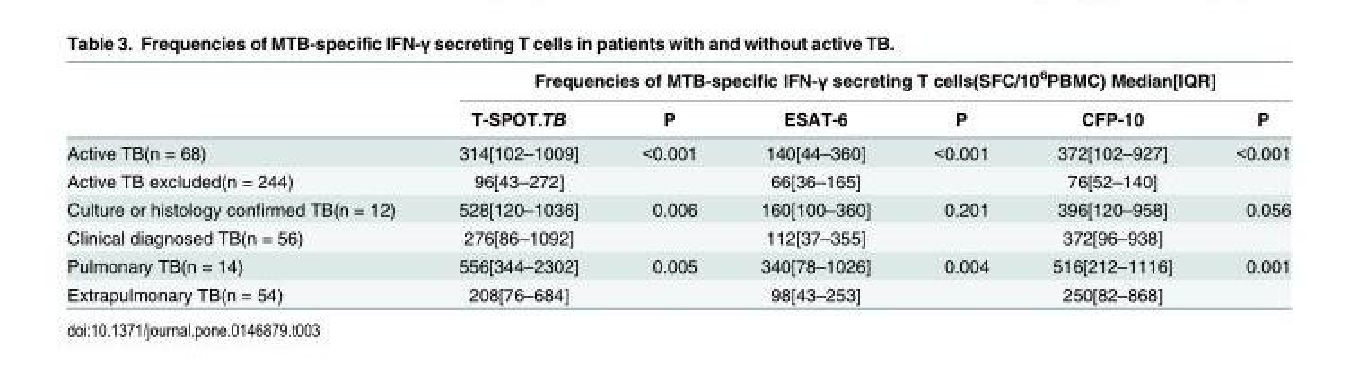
<table><thead><tr><td rowspan="2"></td><td colspan="6">Frequencies of MTB-specific IFN-γ secreting T cells(SFC/10<sup>6</sup>PBMC) Median[IQR]</td></tr><tr><td>T-SPOT.TB</td><td>P</td><td>ESAT-6</td><td>P</td><td>CFP-10</td><td>P</td></tr></thead><tbody><tr><td>Active TB(n = 68)</td><td>314[102–1009]</td><td>&lt;0.001</td><td>140[44–360]</td><td>&lt;0.001</td><td>372[102–927]</td><td>&lt;0.001</td></tr><tr><td>Active TB excluded(n = 244)</td><td>96[43–272]</td><td></td><td>66[36–165]</td><td></td><td>76[52–140]</td><td></td></tr><tr><td>Culture or histology confirmed TB(n = 12)</td><td>528[120–1036]</td><td>0.006</td><td>160[100–360]</td><td>0.201</td><td>396[120–958]</td><td>0.056</td></tr><tr><td>Clinical diagnosed TB(n = 56)</td><td>276[86–1092]</td><td></td><td>112[37–355]</td><td></td><td>372[96–938]</td><td></td></tr><tr><td>Pulmonary TB(n = 14)</td><td>556[344–2302]</td><td>0.005</td><td>340[78–1026]</td><td>0.004</td><td>516[212–1116]</td><td>0.001</td></tr><tr><td>Extrapulmonary TB(n = 54)</td><td>208[76–684]</td><td></td><td>98[43–253]</td><td></td><td>250[82–868]</td><td></td></tr></tbody></table>